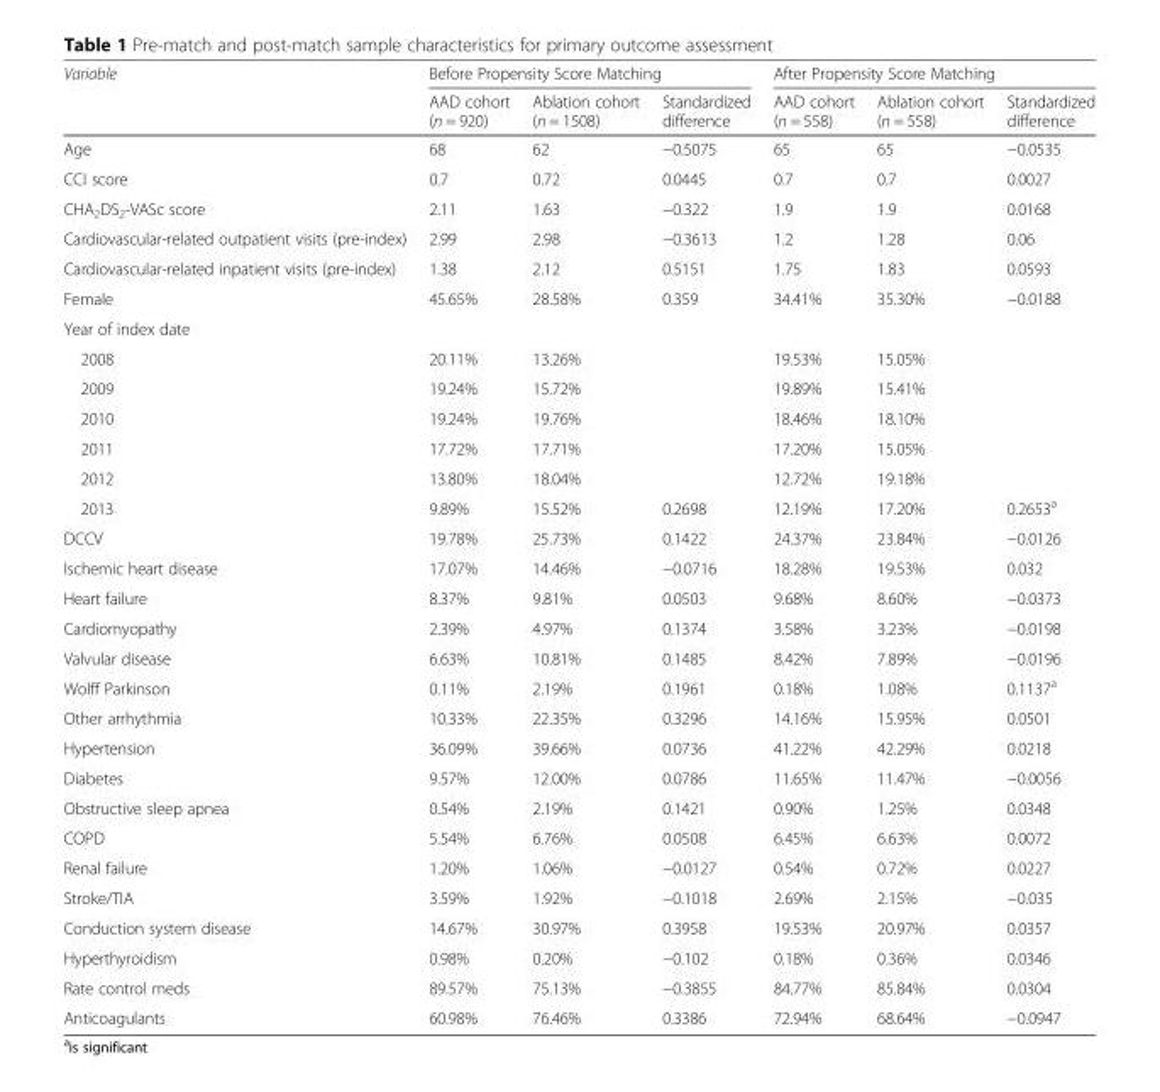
<table><thead><tr><td rowspan="2">Variable</td><td colspan="3">Before Propensity Score Matching</td><td colspan="3">After Propensity Score Matching</td></tr><tr><td>AAD cohort (n = 920)</td><td>Ablation cohort (n = 1508)</td><td>Standardized difference</td><td>AAD cohort (n = 558)</td><td>Ablation cohort (n = 558)</td><td>Standardized difference</td></tr></thead><tbody><tr><td>Age</td><td>68</td><td>62</td><td>−0.5075</td><td>65</td><td>65</td><td>−0.0535</td></tr><tr><td>CCI score</td><td>0.7</td><td>0.72</td><td>0.0445</td><td>0.7</td><td>0.7</td><td>0.0027</td></tr><tr><td>CHA<sub>2</sub>DS<sub>2</sub>-VASc score</td><td>2.11</td><td>1.63</td><td>−0.322</td><td>1.9</td><td>1.9</td><td>0.0168</td></tr><tr><td>Cardiovascular-related outpatient visits (pre-index)</td><td>2.99</td><td>2.98</td><td>−0.3613</td><td>1.2</td><td>1.28</td><td>0.06</td></tr><tr><td>Cardiovascular-related inpatient visits (pre-index)</td><td>1.38</td><td>2.12</td><td>0.5151</td><td>1.75</td><td>1.83</td><td>0.0593</td></tr><tr><td>Female</td><td>45.65%</td><td>28.58%</td><td>0.359</td><td>34.41%</td><td>35.30%</td><td>−0.0188</td></tr><tr><td colspan="7">Year of index date</td></tr><tr><td>2008</td><td>20.11%</td><td>13.26%</td><td></td><td>19.53%</td><td>15.05%</td><td></td></tr><tr><td>2009</td><td>19.24%</td><td>15.72%</td><td></td><td>19.89%</td><td>15.41%</td><td></td></tr><tr><td>2010</td><td>19.24%</td><td>19.76%</td><td></td><td>18.46%</td><td>18.10%</td><td></td></tr><tr><td>2011</td><td>17.72%</td><td>17.71%</td><td></td><td>17.20%</td><td>15.05%</td><td></td></tr><tr><td>2012</td><td>13.80%</td><td>18.04%</td><td></td><td>12.72%</td><td>19.18%</td><td></td></tr><tr><td>2013</td><td>9.89%</td><td>15.52%</td><td>0.2698</td><td>12.19%</td><td>17.20%</td><td>0.2653<sup>a</sup></td></tr><tr><td>DCCV</td><td>19.78%</td><td>25.73%</td><td>0.1422</td><td>24.37%</td><td>23.84%</td><td>−0.0126</td></tr><tr><td>Ischemic heart disease</td><td>17.07%</td><td>14.46%</td><td>−0.0716</td><td>18.28%</td><td>19.53%</td><td>0.032</td></tr><tr><td>Heart failure</td><td>8.37%</td><td>9.81%</td><td>0.0503</td><td>9.68%</td><td>8.60%</td><td>−0.0373</td></tr><tr><td>Cardiomyopathy</td><td>2.39%</td><td>4.97%</td><td>0.1374</td><td>3.58%</td><td>3.23%</td><td>−0.0198</td></tr><tr><td>Valvular disease</td><td>6.63%</td><td>10.81%</td><td>0.1485</td><td>8.42%</td><td>7.89%</td><td>−0.0196</td></tr><tr><td>Wolff Parkinson</td><td>0.11%</td><td>2.19%</td><td>0.1961</td><td>0.18%</td><td>1.08%</td><td>0.1137<sup>a</sup></td></tr><tr><td>Other arrhythmia</td><td>10.33%</td><td>22.35%</td><td>0.3296</td><td>14.16%</td><td>15.95%</td><td>0.0501</td></tr><tr><td>Hypertension</td><td>36.09%</td><td>39.66%</td><td>0.0736</td><td>41.22%</td><td>42.29%</td><td>0.0218</td></tr><tr><td>Diabetes</td><td>9.57%</td><td>12.00%</td><td>0.0786</td><td>11.65%</td><td>11.47%</td><td>−0.0056</td></tr><tr><td>Obstructive sleep apnea</td><td>0.54%</td><td>2.19%</td><td>0.1421</td><td>0.90%</td><td>1.25%</td><td>0.0348</td></tr><tr><td>COPD</td><td>5.54%</td><td>6.76%</td><td>0.0508</td><td>6.45%</td><td>6.63%</td><td>0.0072</td></tr><tr><td>Renal failure</td><td>1.20%</td><td>1.06%</td><td>−0.0127</td><td>0.54%</td><td>0.72%</td><td>0.0227</td></tr><tr><td>Stroke/TIA</td><td>3.59%</td><td>1.92%</td><td>−0.1018</td><td>2.69%</td><td>2.15%</td><td>−0.035</td></tr><tr><td>Conduction system disease</td><td>14.67%</td><td>30.97%</td><td>0.3958</td><td>19.53%</td><td>20.97%</td><td>0.0357</td></tr><tr><td>Hyperthyroidism</td><td>0.98%</td><td>0.20%</td><td>−0.102</td><td>0.18%</td><td>0.36%</td><td>0.0346</td></tr><tr><td>Rate control meds</td><td>89.57%</td><td>75.13%</td><td>−0.3855</td><td>84.77%</td><td>85.84%</td><td>0.0304</td></tr><tr><td>Anticoagulants</td><td>60.98%</td><td>76.46%</td><td>0.3386</td><td>72.94%</td><td>68.64%</td><td>−0.0947</td></tr></tbody></table>